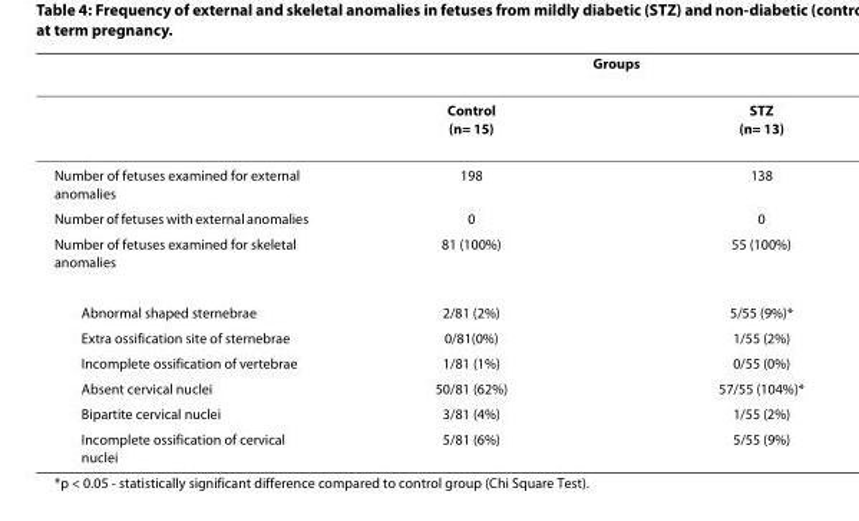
<table><thead><tr><td rowspan="2"></td><td colspan="2">Groups</td></tr><tr><td>Control (n= 15)</td><td>STZ (n= 13)</td></tr></thead><tbody><tr><td>Number of fetuses examined for external anomalies</td><td>198</td><td>138</td></tr><tr><td>Number of fetuses with external anomalies</td><td>0</td><td>0</td></tr><tr><td>Number of fetuses examined for skeletal anomalies</td><td>81 (100%)</td><td>55 (100%)</td></tr><tr><td>Abnormal shaped sternebrae</td><td>2/81 (2%)</td><td>5/55 (9%)*</td></tr><tr><td>Extra ossification site of sternebrae</td><td>0/81(0%)</td><td>1/55 (2%)</td></tr><tr><td>Incomplete ossification of vertebrae</td><td>1/81 (1%)</td><td>0/55 (0%)</td></tr><tr><td>Absent cervical nuclei</td><td>50/81 (62%)</td><td>57/55 (104%)*</td></tr><tr><td>Bipartite cervical nuclei</td><td>3/81 (4%)</td><td>1/55 (2%)</td></tr><tr><td>Incomplete ossification of cervical nuclei</td><td>5/81 (6%)</td><td>5/55 (9%)</td></tr></tbody></table>